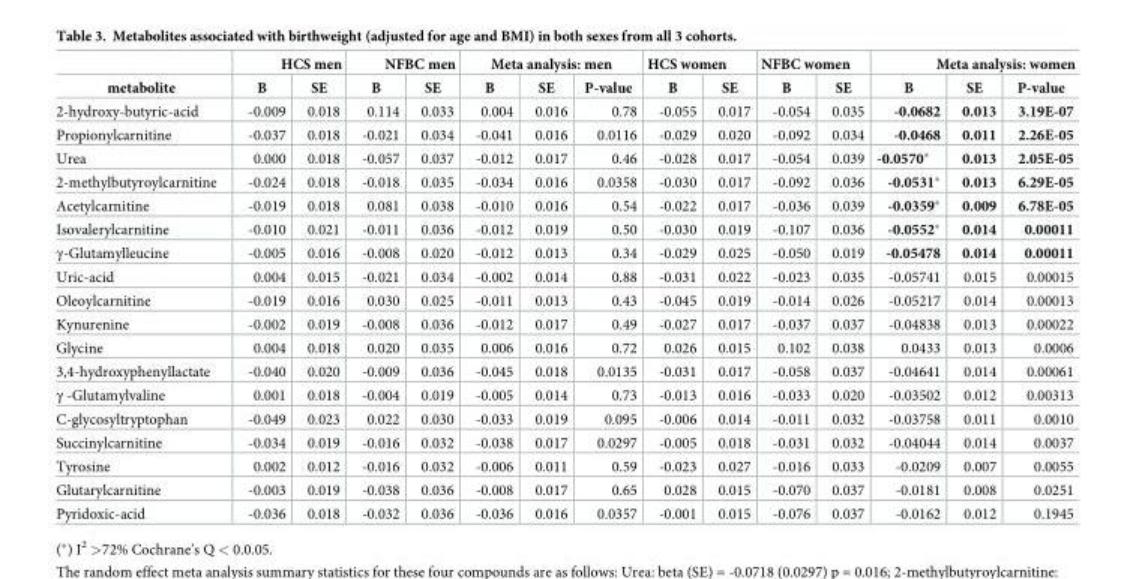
<table><thead><tr><td rowspan="2">metabolite</td><td colspan="2">HCS men</td><td colspan="2">NFBC men</td><td colspan="3">Meta analysis: men</td><td colspan="2">HCS women</td><td colspan="2">NFBC women</td><td colspan="3">Meta analysis: women</td></tr><tr><td>B</td><td>SE</td><td>B</td><td>SE</td><td>B</td><td>SE</td><td>P-value</td><td>B</td><td>SE</td><td>B</td><td>SE</td><td>B</td><td>SE</td><td>P-value</td></tr></thead><tbody><tr><td>2-hydroxy-butyric-acid</td><td>-0.009</td><td>0.018</td><td>0.114</td><td>0.033</td><td>0.004</td><td>0.016</td><td>0.78</td><td>-0.055</td><td>0.017</td><td>-0.054</td><td>0.035</td><td>-0.0682</td><td>0.013</td><td>3.19E-07</td></tr><tr><td>Propionylcarnitine</td><td>-0.037</td><td>0.018</td><td>-0.021</td><td>0.034</td><td>-0.041</td><td>0.016</td><td>0.0116</td><td>-0.029</td><td>0.020</td><td>-0.092</td><td>0.034</td><td>-0.0468</td><td>0.011</td><td>2.26E-05</td></tr><tr><td>Urea</td><td>0.000</td><td>0.018</td><td>-0.057</td><td>0.037</td><td>-0.012</td><td>0.017</td><td>0.46</td><td>-0.028</td><td>0.017</td><td>-0.054</td><td>0.039</td><td>-0.0570*</td><td>0.013</td><td>2.05E-05</td></tr><tr><td>2-methylbutyroylcarnitine</td><td>-0.024</td><td>0.018</td><td>-0.018</td><td>0.035</td><td>-0.034</td><td>0.016</td><td>0.0358</td><td>-0.030</td><td>0.017</td><td>-0.092</td><td>0.036</td><td>-0.0531*</td><td>0.013</td><td>6.29E-05</td></tr><tr><td>Acetylcarnitine</td><td>-0.019</td><td>0.018</td><td>0.081</td><td>0.038</td><td>-0.010</td><td>0.016</td><td>0.54</td><td>-0.022</td><td>0.017</td><td>-0.036</td><td>0.039</td><td>-0.0359*</td><td>0.009</td><td>6.78E-05</td></tr><tr><td>Isovalerylcarnitine</td><td>-0.010</td><td>0.021</td><td>-0.011</td><td>0.036</td><td>-0.012</td><td>0.019</td><td>0.50</td><td>-0.030</td><td>0.019</td><td>-0.107</td><td>0.036</td><td>-0.0552*</td><td>0.014</td><td>0.00011</td></tr><tr><td>γ-Glutamylleucine</td><td>-0.005</td><td>0.016</td><td>-0.008</td><td>0.020</td><td>-0.012</td><td>0.013</td><td>0.34</td><td>-0.029</td><td>0.025</td><td>-0.050</td><td>0.019</td><td>-0.05478</td><td>0.014</td><td>0.00011</td></tr><tr><td>Uric-acid</td><td>0.004</td><td>0.015</td><td>-0.021</td><td>0.034</td><td>-0.002</td><td>0.014</td><td>0.88</td><td>-0.031</td><td>0.022</td><td>-0.023</td><td>0.035</td><td>-0.05741</td><td>0.015</td><td>0.00015</td></tr><tr><td>Oleoylcarnitine</td><td>-0.019</td><td>0.016</td><td>0.030</td><td>0.025</td><td>-0.011</td><td>0.013</td><td>0.43</td><td>-0.045</td><td>0.019</td><td>-0.014</td><td>0.026</td><td>-0.05217</td><td>0.014</td><td>0.00013</td></tr><tr><td>Kynurenine</td><td>-0.002</td><td>0.019</td><td>-0.008</td><td>0.036</td><td>-0.012</td><td>0.017</td><td>0.49</td><td>-0.027</td><td>0.017</td><td>-0.037</td><td>0.037</td><td>-0.04838</td><td>0.013</td><td>0.00022</td></tr><tr><td>Glycine</td><td>0.004</td><td>0.018</td><td>0.020</td><td>0.035</td><td>0.006</td><td>0.016</td><td>0.72</td><td>0.026</td><td>0.015</td><td>0.102</td><td>0.038</td><td>0.0433</td><td>0.013</td><td>0.0006</td></tr><tr><td>3,4-hydroxyphenyllactate</td><td>-0.040</td><td>0.020</td><td>-0.009</td><td>0.036</td><td>-0.045</td><td>0.018</td><td>0.0135</td><td>-0.031</td><td>0.017</td><td>-0.058</td><td>0.037</td><td>-0.04641</td><td>0.014</td><td>0.00061</td></tr><tr><td>γ -Glutamylvaline</td><td>0.001</td><td>0.018</td><td>-0.004</td><td>0.019</td><td>-0.005</td><td>0.014</td><td>0.73</td><td>-0.013</td><td>0.016</td><td>-0.033</td><td>0.020</td><td>-0.03502</td><td>0.012</td><td>0.00313</td></tr><tr><td>C-glycosyltryptophan</td><td>-0.049</td><td>0.023</td><td>0.022</td><td>0.030</td><td>-0.033</td><td>0.019</td><td>0.095</td><td>-0.006</td><td>0.014</td><td>-0.011</td><td>0.032</td><td>-0.03758</td><td>0.011</td><td>0.0010</td></tr><tr><td>Succinylcarnitine</td><td>-0.034</td><td>0.019</td><td>-0.016</td><td>0.032</td><td>-0.038</td><td>0.017</td><td>0.0297</td><td>-0.005</td><td>0.018</td><td>-0.031</td><td>0.032</td><td>-0.04044</td><td>0.014</td><td>0.0037</td></tr><tr><td>Tyrosine</td><td>0.002</td><td>0.012</td><td>-0.016</td><td>0.032</td><td>-0.006</td><td>0.011</td><td>0.59</td><td>-0.023</td><td>0.027</td><td>-0.016</td><td>0.033</td><td>-0.0209</td><td>0.007</td><td>0.0055</td></tr><tr><td>Glutarylcarnitine</td><td>-0.003</td><td>0.019</td><td>-0.038</td><td>0.036</td><td>-0.008</td><td>0.017</td><td>0.65</td><td>0.028</td><td>0.015</td><td>-0.070</td><td>0.037</td><td>-0.0181</td><td>0.008</td><td>0.0251</td></tr><tr><td>Pyridoxic-acid</td><td>-0.036</td><td>0.018</td><td>-0.032</td><td>0.036</td><td>-0.036</td><td>0.016</td><td>0.0357</td><td>-0.001</td><td>0.015</td><td>-0.076</td><td>0.037</td><td>-0.0162</td><td>0.012</td><td>0.1945</td></tr></tbody></table>